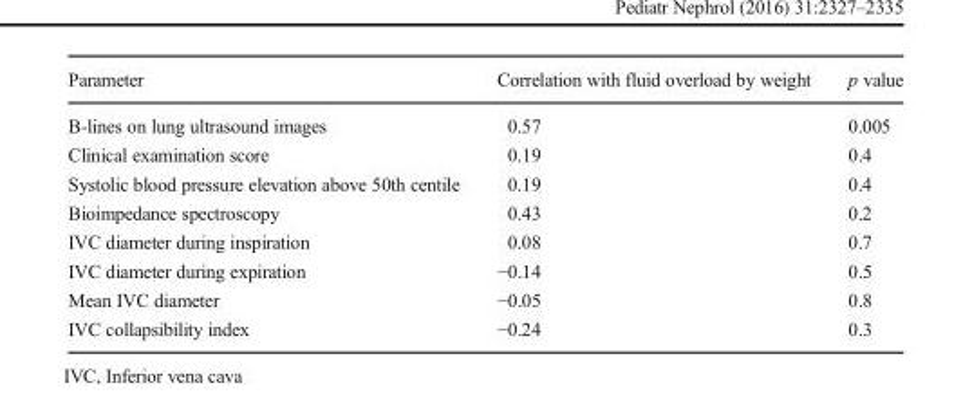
<table><thead><tr><td>Parameter</td><td>Correlation with fluid overload by weight</td><td>p value</td></tr></thead><tbody><tr><td>B-lines on lung ultrasound images</td><td>0.57</td><td>0.005</td></tr><tr><td>Clinical examination score</td><td>0.19</td><td>0.4</td></tr><tr><td>Systolic blood pressure elevation above 50th centile</td><td>0.19</td><td>0.4</td></tr><tr><td>Bioimpedance spectroscopy</td><td>0.43</td><td>0.2</td></tr><tr><td>IVC diameter during inspiration</td><td>0.08</td><td>0.7</td></tr><tr><td>IVC diameter during expiration</td><td>−0.14</td><td>0.5</td></tr><tr><td>Mean IVC diameter</td><td>−0.05</td><td>0.8</td></tr><tr><td>IVC collapsibility index</td><td>−0.24</td><td>0.3</td></tr></tbody></table>